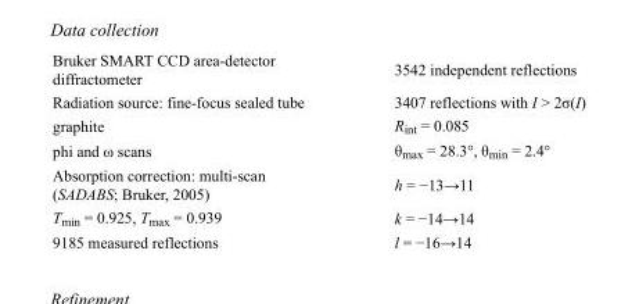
<table><tbody><tr><td>Bruker SMART CCD area-detector diffractometer</td><td>3542 independent reflections</td></tr><tr><td>Radiation source: fine-focus sealed tube</td><td>3407 reflections with I &gt; 2σ(I)</td></tr><tr><td>graphite</td><td>R<sub>int</sub> = 0.085</td></tr><tr><td>phi and ω scans</td><td>θ<sub>max</sub> = 28.3°, θ<sub>min</sub> = 2.4°</td></tr><tr><td>Absorption correction: multi-scan (SADABS; Bruker, 2005)</td><td>h = −13→11</td></tr><tr><td>T<sub>min</sub> = 0.925, T<sub>max</sub> = 0.939</td><td>k = −14→14</td></tr><tr><td>9185 measured reflections</td><td>l = −16→14</td></tr></tbody></table>